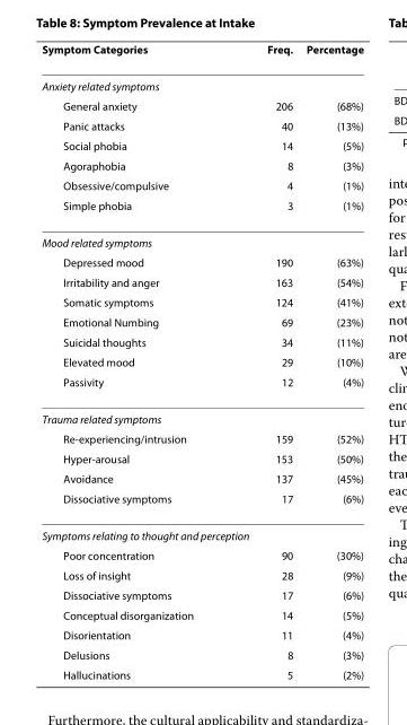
<table><thead><tr><td>Symptom Categories</td><td>Freq.</td><td>Percentage</td></tr></thead><tbody><tr><td colspan="3">Anxiety related symptoms</td></tr><tr><td>General anxiety</td><td>206</td><td>(68%)</td></tr><tr><td>Panic attacks</td><td>40</td><td>(13%)</td></tr><tr><td>Social phobia</td><td>14</td><td>(5%)</td></tr><tr><td>Agoraphobia</td><td>8</td><td>(3%)</td></tr><tr><td>Obsessive/compulsive</td><td>4</td><td>(1%)</td></tr><tr><td>Simple phobia</td><td>3</td><td>(1%)</td></tr><tr><td colspan="3">Mood related symptoms</td></tr><tr><td>Depressed mood</td><td>190</td><td>(63%)</td></tr><tr><td>Irritability and anger</td><td>163</td><td>(54%)</td></tr><tr><td>Somatic symptoms</td><td>124</td><td>(41%)</td></tr><tr><td>Emotional Numbing</td><td>69</td><td>(23%)</td></tr><tr><td>Suicidal thoughts</td><td>34</td><td>(11%)</td></tr><tr><td>Elevated mood</td><td>29</td><td>(10%)</td></tr><tr><td>Passivity</td><td>12</td><td>(4%)</td></tr><tr><td colspan="3">Trauma related symptoms</td></tr><tr><td>Re-experiencing/intrusion</td><td>159</td><td>(52%)</td></tr><tr><td>Hyper-arousal</td><td>153</td><td>(50%)</td></tr><tr><td>Avoidance</td><td>137</td><td>(45%)</td></tr><tr><td>Dissociative symptoms</td><td>17</td><td>(6%)</td></tr><tr><td colspan="3">Symptoms relating to thought and perception</td></tr><tr><td>Poor concentration</td><td>90</td><td>(30%)</td></tr><tr><td>Loss of insight</td><td>28</td><td>(9%)</td></tr><tr><td>Dissociative symptoms</td><td>17</td><td>(6%)</td></tr><tr><td>Conceptual disorganization</td><td>14</td><td>(5%)</td></tr><tr><td>Disorientation</td><td>11</td><td>(4%)</td></tr><tr><td>Delusions</td><td>8</td><td>(3%)</td></tr><tr><td>Hallucinations</td><td>5</td><td>(2%)</td></tr></tbody></table>